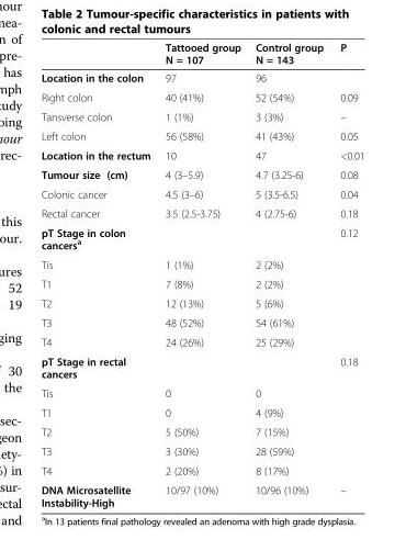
<table><thead><tr><td></td><td>Tattooed group N = 107</td><td>Control group N = 143</td><td>P</td></tr></thead><tbody><tr><td>Location in the colon</td><td>97</td><td>96</td><td></td></tr><tr><td>Right colon</td><td>40 (41%)</td><td>52 (54%)</td><td>0.09</td></tr><tr><td>Tansverse colon</td><td>1 (1%)</td><td>3 (3%)</td><td>–</td></tr><tr><td>Left colon</td><td>56 (58%)</td><td>41 (43%)</td><td>0.05</td></tr><tr><td>Location in the rectum</td><td>10</td><td>47</td><td>&lt;0.01</td></tr><tr><td>Tumour size (cm)</td><td>4 (3–5.9)</td><td>4.7 (3.25-6)</td><td>0.08</td></tr><tr><td>Colonic cancer</td><td>4.5 (3–6)</td><td>5 (3.5-6.5)</td><td>0.04</td></tr><tr><td>Rectal cancer</td><td>3.5 (2.5-3.75)</td><td>4 (2.75-6)</td><td>0.18</td></tr><tr><td>pT Stage in colon cancers<sup>a</sup></td><td></td><td></td><td>0.12</td></tr><tr><td>Tis</td><td>1 (1%)</td><td>2 (2%)</td><td></td></tr><tr><td>T1</td><td>7 (8%)</td><td>2 (2%)</td><td></td></tr><tr><td>T2</td><td>12 (13%)</td><td>5 (6%)</td><td></td></tr><tr><td>T3</td><td>48 (52%)</td><td>54 (61%)</td><td></td></tr><tr><td>T4</td><td>24 (26%)</td><td>25 (29%)</td><td></td></tr><tr><td>pT Stage in rectal cancers</td><td></td><td></td><td>0.18</td></tr><tr><td>Tis</td><td>0</td><td>0</td><td></td></tr><tr><td>T1</td><td>0</td><td>4 (9%)</td><td></td></tr><tr><td>T2</td><td>5 (50%)</td><td>7 (15%)</td><td></td></tr><tr><td>T3</td><td>3 (30%)</td><td>28 (59%)</td><td></td></tr><tr><td>T4</td><td>2 (20%)</td><td>8 (17%)</td><td></td></tr><tr><td>DNA Microsatellite Instability-High</td><td>10/97 (10%)</td><td>10/96 (10%)</td><td>–</td></tr></tbody></table>